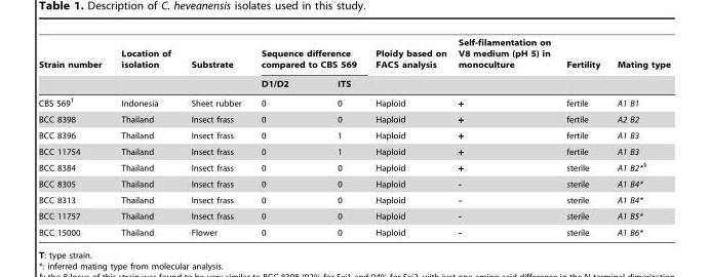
<table><thead><tr><td rowspan="2">Strain number</td><td rowspan="2">Location of isolation</td><td rowspan="2">Substrate</td><td colspan="2">Sequence difference compared to CBS 569</td><td rowspan="2">Ploidy based on FACS analysis</td><td rowspan="2">Self-filamentation on V8 medium (pH 5) in monoculture</td><td rowspan="2">Fertility</td><td rowspan="2">Mating type</td></tr><tr><td>D1/D2</td><td>ITS</td></tr></thead><tbody><tr><td>CBS 569<sup>T</sup></td><td>Indonesia</td><td>Sheet rubber</td><td>0</td><td>0</td><td>Haploid</td><td>+</td><td>fertile</td><td>A1 B1</td></tr><tr><td>BCC 8398</td><td>Thailand</td><td>Insect frass</td><td>0</td><td>0</td><td>Haploid</td><td>+</td><td>fertile</td><td>A2 B2</td></tr><tr><td>BCC 8396</td><td>Thailand</td><td>Insect frass</td><td>0</td><td>1</td><td>Haploid</td><td>+</td><td>fertile</td><td>A1 B3</td></tr><tr><td>BCC 11754</td><td>Thailand</td><td>Insect frass</td><td>0</td><td>1</td><td>Haploid</td><td>+</td><td>fertile</td><td>A1 B3</td></tr><tr><td>BCC 8384</td><td>Thailand</td><td>Insect frass</td><td>0</td><td>0</td><td>Haploid</td><td>+</td><td>sterile</td><td>A1 B2*§</td></tr><tr><td>BCC 8305</td><td>Thailand</td><td>Insect frass</td><td>0</td><td>0</td><td>Haploid</td><td>-</td><td>sterile</td><td>A1 B4*</td></tr><tr><td>BCC 8313</td><td>Thailand</td><td>Insect frass</td><td>0</td><td>0</td><td>Haploid</td><td>-</td><td>sterile</td><td>A1 B4*</td></tr><tr><td>BCC 11757</td><td>Thailand</td><td>Insect frass</td><td>0</td><td>0</td><td>Haploid</td><td>-</td><td>sterile</td><td>A1 B5*</td></tr><tr><td>BCC 15000</td><td>Thailand</td><td>Flower</td><td>0</td><td>0</td><td>Haploid</td><td>-</td><td>sterile</td><td>A1 B6*</td></tr></tbody></table>